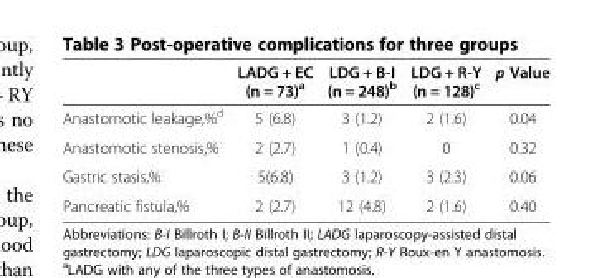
<table><thead><tr><td></td><td>LADG + EC (n = 73)<sup>a</sup></td><td>LDG + B-I (n = 248)<sup>b</sup></td><td>LDG + R-Y (n = 128)<sup>c</sup></td><td>p Value</td></tr></thead><tbody><tr><td>Anastomotic leakage,%<sup>d</sup></td><td>5 (6.8)</td><td>3 (1.2)</td><td>2 (1.6)</td><td>0.04</td></tr><tr><td>Anastomotic stenosis,%</td><td>2 (2.7)</td><td>1 (0.4)</td><td>0</td><td>0.32</td></tr><tr><td>Gastric stasis,%</td><td>5(6.8)</td><td>3 (1.2)</td><td>3 (2.3)</td><td>0.06</td></tr><tr><td>Pancreatic fistula,%</td><td>2 (2.7)</td><td>12 (4.8)</td><td>2 (1.6)</td><td>0.40</td></tr></tbody></table>